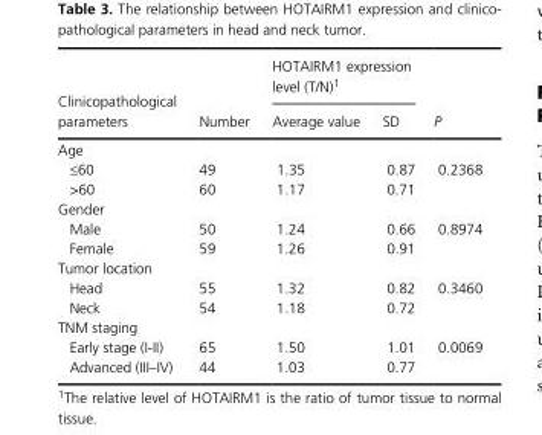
<table><thead><tr><td rowspan="2">Clinicopathological parameters</td><td rowspan="2">Number</td><td colspan="2">HOTAIRM1 expression level (T/N)1</td><td rowspan="2">P</td></tr><tr><td>Average value</td><td>SD</td></tr></thead><tbody><tr><td colspan="5">Age</td></tr><tr><td>≤60</td><td>49</td><td>1.35</td><td>0.87</td><td rowspan="2">0.2368</td></tr><tr><td>&gt;60</td><td>60</td><td>1.17</td><td>0.71</td></tr><tr><td colspan="5">Gender</td></tr><tr><td>Male</td><td>50</td><td>1.24</td><td>0.66</td><td rowspan="2">0.8974</td></tr><tr><td>Female</td><td>59</td><td>1.26</td><td>0.91</td></tr><tr><td colspan="5">Tumor location</td></tr><tr><td>Head</td><td>55</td><td>1.32</td><td>0.82</td><td rowspan="2">0.3460</td></tr><tr><td>Neck</td><td>54</td><td>1.18</td><td>0.72</td></tr><tr><td colspan="5">TNM staging</td></tr><tr><td>Early stage (I- II)</td><td>65</td><td>1.50</td><td>1.01</td><td rowspan="2">0.0069</td></tr><tr><td>Advanced (III–IV)</td><td>44</td><td>1.03</td><td>0.77</td></tr></tbody></table>